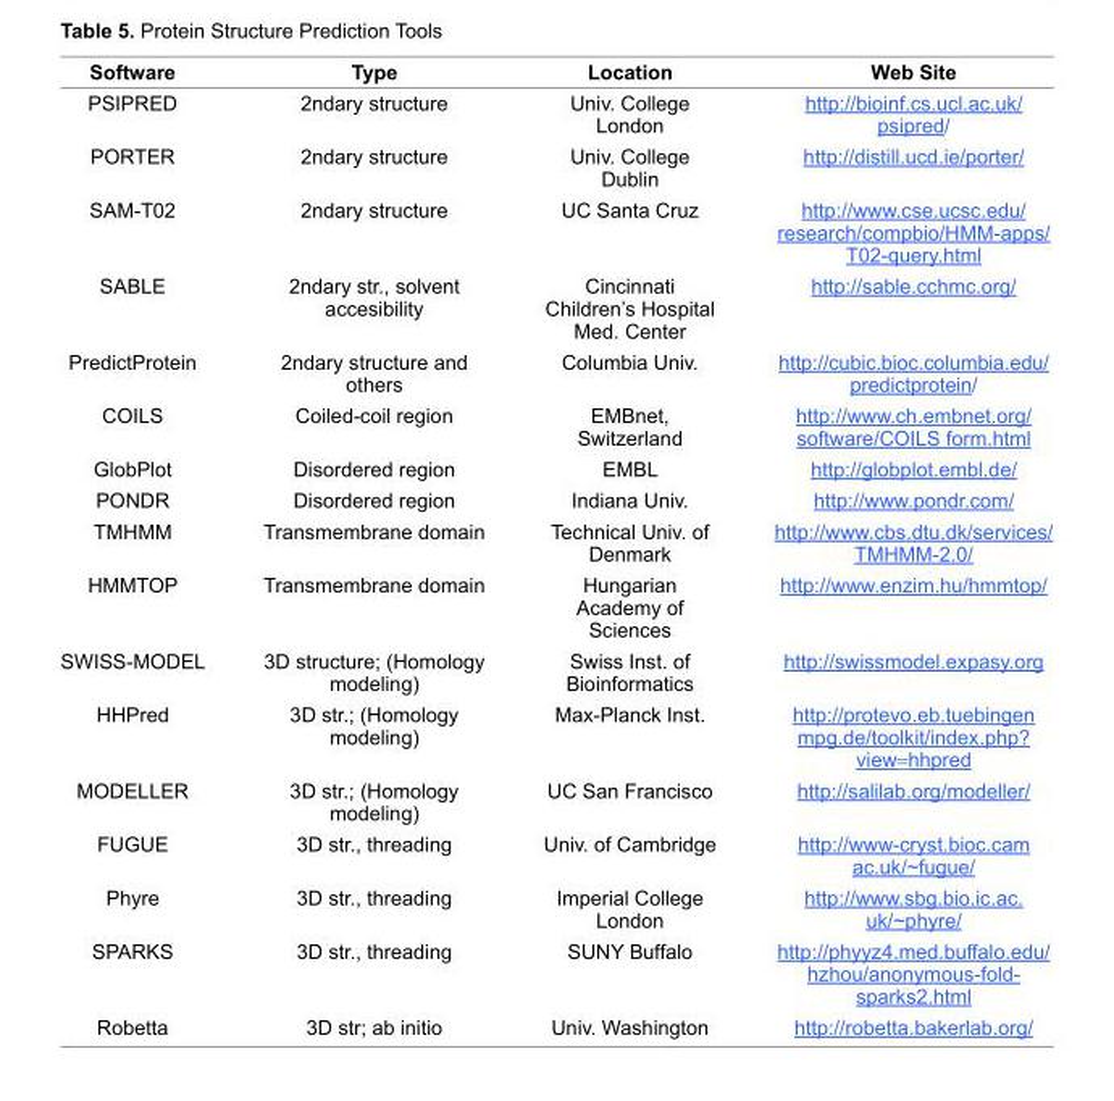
<table><thead><tr><td>Software</td><td>Type</td><td>Location</td><td>Web Site</td></tr></thead><tbody><tr><td>PSIPRED</td><td>2ndary structure</td><td>Univ. College London</td><td>http://bioinf.cs.ucl.ac.uk/ psipred/</td></tr><tr><td>PORTER</td><td>2ndary structure</td><td>Univ. College Dublin</td><td>http://distill.ucd.ie/porter/</td></tr><tr><td>SAM-T02</td><td>2ndary structure</td><td>UC Santa Cruz</td><td>http://www.cse.ucsc.edu/ research/compbio/HMM-apps/ T02-query.html</td></tr><tr><td>SABLE</td><td>2ndary str., solvent accesibility</td><td>Cincinnati Children’s Hospital Med. Center</td><td>http://sable.cchmc.org/</td></tr><tr><td>PredictProtein</td><td>2ndary structure and others</td><td>Columbia Univ.</td><td>http://cubic.bioc.columbia.edu/ predictprotein/</td></tr><tr><td>COILS</td><td>Coiled-coil region</td><td>EMBnet, Switzerland</td><td>http://www.ch.embnet.org/ software/COILS form.html</td></tr><tr><td>GlobPlot</td><td>Disordered region</td><td>EMBL</td><td>http://globplot.embl.de/</td></tr><tr><td>PONDR</td><td>Disordered region</td><td>Indiana Univ.</td><td>http://www.pondr.com/</td></tr><tr><td>TMHMM</td><td>Transmembrane domain</td><td>Technical Univ. of Denmark</td><td>http://www.cbs.dtu.dk/services/ TMHMM-2.0/</td></tr><tr><td>HMMTOP</td><td>Transmembrane domain</td><td>Hungarian Academy of Sciences</td><td>http://www.enzim.hu/hmmtop/</td></tr><tr><td>SWISS-MODEL</td><td>3D structure; (Homology modeling)</td><td>Swiss Inst. of Bioinformatics</td><td>http://swissmodel.expasy.org</td></tr><tr><td>HHPred</td><td>3D str.; (Homology modeling)</td><td>Max-Planck Inst.</td><td>http://protevo.eb.tuebingen mpg.de/toolkit/index.php? view=hhpred</td></tr><tr><td>MODELLER</td><td>3D str.; (Homology modeling)</td><td>UC San Francisco</td><td>http://salilab.org/modeller/</td></tr><tr><td>FUGUE</td><td>3D str., threading</td><td>Univ. of Cambridge</td><td>http://www-cryst.bioc.cam ac.uk/~fugue/</td></tr><tr><td>Phyre</td><td>3D str., threading</td><td>Imperial College London</td><td>http://www.sbg.bio.ic.ac. uk/~phyre/</td></tr><tr><td>SPARKS</td><td>3D str., threading</td><td>SUNY Buffalo</td><td>http://phyyz4.med.buffalo.edu/ hzhou/anonymous-fold- sparks2.html</td></tr><tr><td>Robetta</td><td>3D str; ab initio</td><td>Univ. Washington</td><td>http://robetta.bakerlab.org/</td></tr></tbody></table>